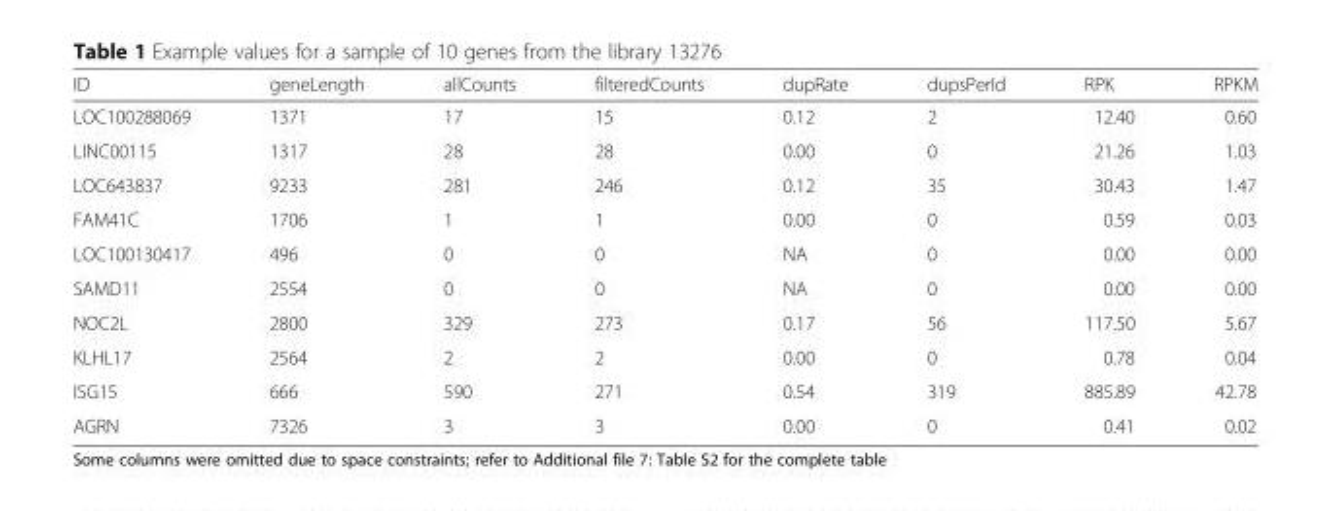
<table><thead><tr><td>ID</td><td>geneLength</td><td>allCounts</td><td>filteredCounts</td><td>dupRate</td><td>dupsPerId</td><td>RPK</td><td>RPKM</td></tr></thead><tbody><tr><td>LOC100288069</td><td>1371</td><td>17</td><td>15</td><td>0.12</td><td>2</td><td>12.40</td><td>0.60</td></tr><tr><td>LINC00115</td><td>1317</td><td>28</td><td>28</td><td>0.00</td><td>0</td><td>21.26</td><td>1.03</td></tr><tr><td>LOC643837</td><td>9233</td><td>281</td><td>246</td><td>0.12</td><td>35</td><td>30.43</td><td>1.47</td></tr><tr><td>FAM41C</td><td>1706</td><td>1</td><td>1</td><td>0.00</td><td>0</td><td>0.59</td><td>0.03</td></tr><tr><td>LOC100130417</td><td>496</td><td>0</td><td>0</td><td>NA</td><td>0</td><td>0.00</td><td>0.00</td></tr><tr><td>SAMD11</td><td>2554</td><td>0</td><td>0</td><td>NA</td><td>0</td><td>0.00</td><td>0.00</td></tr><tr><td>NOC2L</td><td>2800</td><td>329</td><td>273</td><td>0.17</td><td>56</td><td>117.50</td><td>5.67</td></tr><tr><td>KLHL17</td><td>2564</td><td>2</td><td>2</td><td>0.00</td><td>0</td><td>0.78</td><td>0.04</td></tr><tr><td>ISG15</td><td>666</td><td>590</td><td>271</td><td>0.54</td><td>319</td><td>885.89</td><td>42.78</td></tr><tr><td>AGRN</td><td>7326</td><td>3</td><td>3</td><td>0.00</td><td>0</td><td>0.41</td><td>0.02</td></tr></tbody></table>